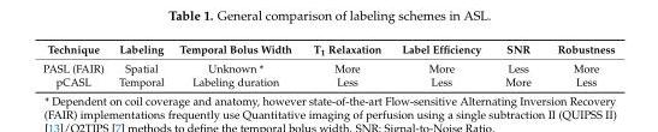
<table><thead><tr><td>Technique</td><td>Labeling</td><td>Temporal Bolus Width</td><td>T<sub>1</sub> Relaxation</td><td>Label Efficiency</td><td>SNR</td><td>Robustness</td></tr></thead><tbody><tr><td>PASL (FAIR)</td><td>Spatial</td><td>Unknown *</td><td>More</td><td>More</td><td>Less</td><td>More</td></tr><tr><td>pCASL</td><td>Temporal</td><td>Labeling duration</td><td>Less</td><td>Less</td><td>More</td><td>Less</td></tr></tbody></table>